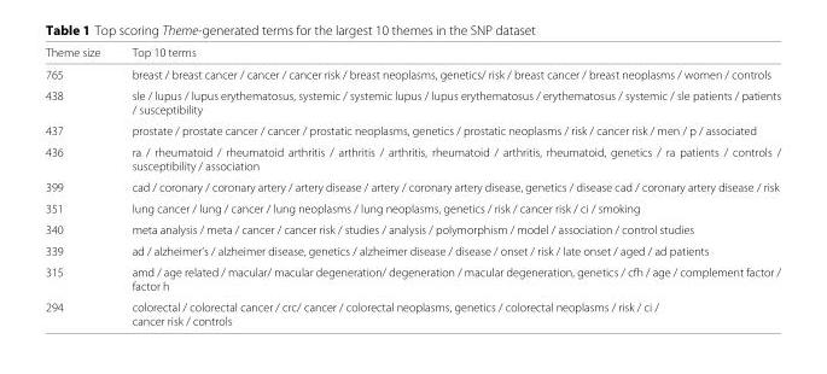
<table><thead><tr><td>Theme size</td><td>Top 10 terms</td></tr></thead><tbody><tr><td>765</td><td>breast / breast cancer / cancer / cancer risk / breast neoplasms, genetics/ risk / breast cancer / breast neoplasms / women / controls</td></tr><tr><td>438</td><td>sle / lupus / lupus erythematosus, systemic / systemic lupus / lupus erythematosus / erythematosus / systemic / sle patients / patients / susceptibility</td></tr><tr><td>437</td><td>prostate / prostate cancer / cancer / prostatic neoplasms, genetics / prostatic neoplasms / risk / cancer risk / men / p / associated</td></tr><tr><td>436</td><td>ra / rheumatoid / rheumatoid arthritis / arthritis / arthritis, rheumatoid / arthritis, rheumatoid, genetics / ra patients / controls / susceptibility / association</td></tr><tr><td>399</td><td>cad / coronary / coronary artery / artery disease / artery / coronary artery disease, genetics / disease cad / coronary artery disease / risk</td></tr><tr><td>351</td><td>lung cancer / lung / cancer / lung neoplasms / lung neoplasms, genetics / risk / cancer risk / ci / smoking</td></tr><tr><td>340</td><td>meta analysis / meta / cancer / cancer risk / studies / analysis / polymorphism / model / association / control studies</td></tr><tr><td>339</td><td>ad / alzheimer’s / alzheimer disease, genetics / alzheimer disease / disease / onset / risk / late onset / aged / ad patients</td></tr><tr><td>315</td><td>amd / age related / macular/ macular degeneration/ degeneration / macular degeneration, genetics / cfh / age / complement factor / factor h</td></tr><tr><td>294</td><td>colorectal / colorectal cancer / crc/ cancer / colorectal neoplasms, genetics / colorectal neoplasms / risk / ci / cancer risk / controls</td></tr></tbody></table>